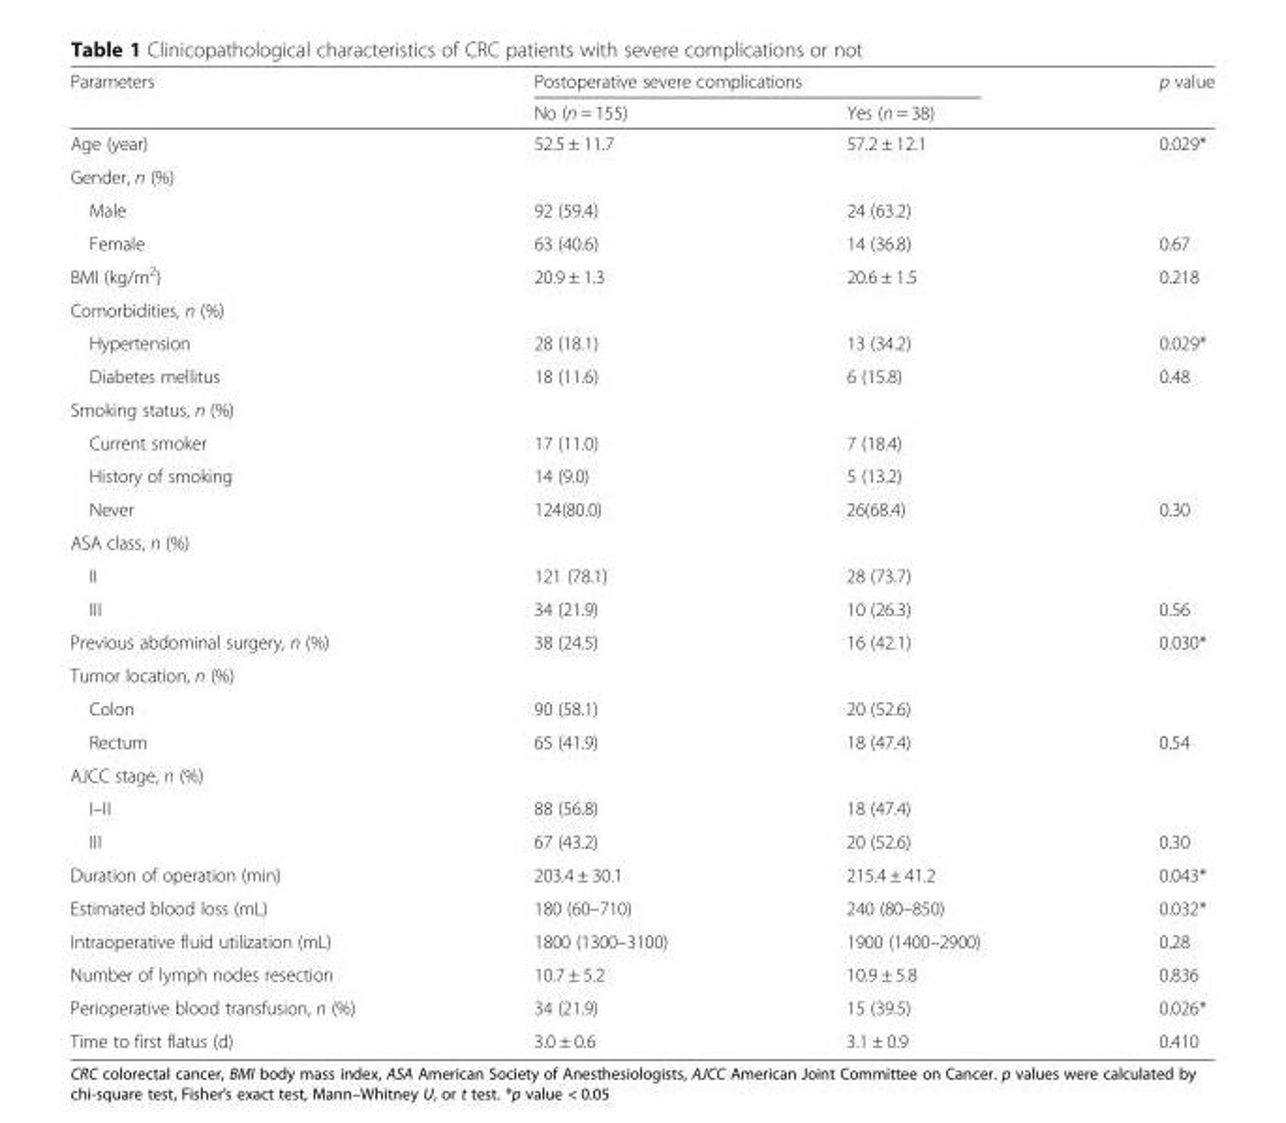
<table><thead><tr><td rowspan="2">Parameters</td><td colspan="2">Postoperative severe complications</td><td rowspan="2">p value</td></tr><tr><td>No (n = 155)</td><td>Yes (n = 38)</td></tr></thead><tbody><tr><td>Age (year)</td><td>52.5 ± 11.7</td><td>57.2 ± 12.1</td><td>0.029*</td></tr><tr><td colspan="4">Gender, n (%)</td></tr><tr><td>Male</td><td>92 (59.4)</td><td>24 (63.2)</td><td></td></tr><tr><td>Female</td><td>63 (40.6)</td><td>14 (36.8)</td><td>0.67</td></tr><tr><td>BMI (kg/m<sup>2</sup>)</td><td>20.9 ± 1.3</td><td>20.6 ± 1.5</td><td>0.218</td></tr><tr><td colspan="4">Comorbidities, n (%)</td></tr><tr><td>Hypertension</td><td>28 (18.1)</td><td>13 (34.2)</td><td>0.029*</td></tr><tr><td>Diabetes mellitus</td><td>18 (11.6)</td><td>6 (15.8)</td><td>0.48</td></tr><tr><td colspan="4">Smoking status, n (%)</td></tr><tr><td>Current smoker</td><td>17 (11.0)</td><td>7 (18.4)</td><td></td></tr><tr><td>History of smoking</td><td>14 (9.0)</td><td>5 (13.2)</td><td></td></tr><tr><td>Never</td><td>124(80.0)</td><td>26(68.4)</td><td>0.30</td></tr><tr><td colspan="4">ASA class, n (%)</td></tr><tr><td>II</td><td>121 (78.1)</td><td>28 (73.7)</td><td></td></tr><tr><td>III</td><td>34 (21.9)</td><td>10 (26.3)</td><td>0.56</td></tr><tr><td>Previous abdominal surgery, n (%)</td><td>38 (24.5)</td><td>16 (42.1)</td><td>0.030*</td></tr><tr><td colspan="4">Tumor location, n (%)</td></tr><tr><td>Colon</td><td>90 (58.1)</td><td>20 (52.6)</td><td></td></tr><tr><td>Rectum</td><td>65 (41.9)</td><td>18 (47.4)</td><td>0.54</td></tr><tr><td colspan="4">AJCC stage, n (%)</td></tr><tr><td>I–II</td><td>88 (56.8)</td><td>18 (47.4)</td><td></td></tr><tr><td>III</td><td>67 (43.2)</td><td>20 (52.6)</td><td>0.30</td></tr><tr><td>Duration of operation (min)</td><td>203.4 ± 30.1</td><td>215.4 ± 41.2</td><td>0.043*</td></tr><tr><td>Estimated blood loss (mL)</td><td>180 (60–710)</td><td>240 (80–850)</td><td>0.032*</td></tr><tr><td>Intraoperative fluid utilization (mL)</td><td>1800 (1300–3100)</td><td>1900 (1400–2900)</td><td>0.28</td></tr><tr><td>Number of lymph nodes resection</td><td>10.7 ± 5.2</td><td>10.9 ± 5.8</td><td>0.836</td></tr><tr><td>Perioperative blood transfusion, n (%)</td><td>34 (21.9)</td><td>15 (39.5)</td><td>0.026*</td></tr><tr><td>Time to first flatus (d)</td><td>3.0 ± 0.6</td><td>3.1 ± 0.9</td><td>0.410</td></tr></tbody></table>